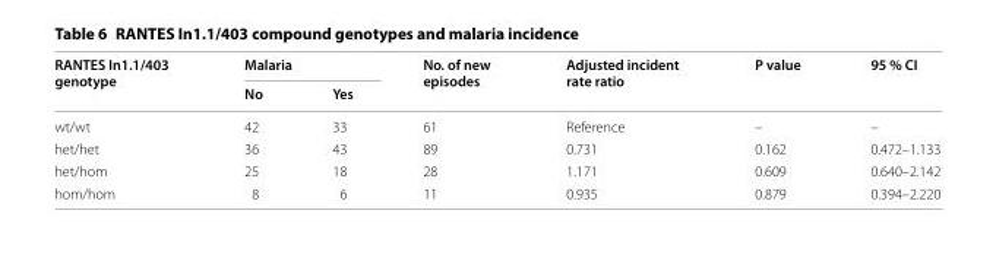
<table><thead><tr><td rowspan="2">RANTES In1.1/403 genotype</td><td colspan="2">Malaria</td><td rowspan="2">No. of new episodes</td><td rowspan="2">Adjusted incident rate ratio</td><td rowspan="2">P value</td><td rowspan="2">95 % CI</td></tr><tr><td>No</td><td>Yes</td></tr></thead><tbody><tr><td>wt/wt</td><td>42</td><td>33</td><td>61</td><td>Reference</td><td>–</td><td>–</td></tr><tr><td>het/het</td><td>36</td><td>43</td><td>89</td><td>0.731</td><td>0.162</td><td>0.472–1.133</td></tr><tr><td>het/hom</td><td>25</td><td>18</td><td>28</td><td>1.171</td><td>0.609</td><td>0.640–2.142</td></tr><tr><td>hom/hom</td><td>8</td><td>6</td><td>11</td><td>0.935</td><td>0.879</td><td>0.394–2.220</td></tr></tbody></table>